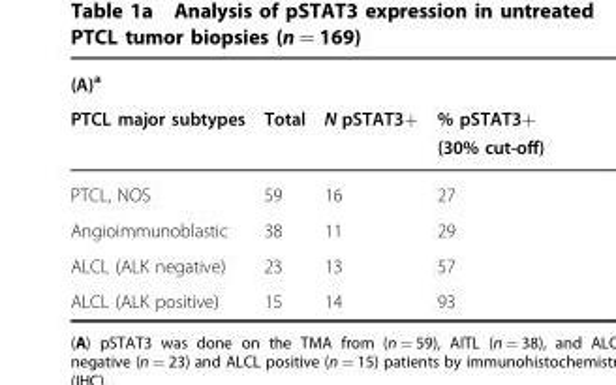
<table><thead><tr><td rowspan="2">(A)<sup>a</sup> PTCL major subtypes</td><td rowspan="2">Total</td><td rowspan="2">N pSTAT3+</td><td rowspan="2">% pSTAT3+ (30% cut-off)</td></tr><tr></tr></thead><tbody><tr><td>PTCL, NOS</td><td>59</td><td>16</td><td>27</td></tr><tr><td>Angioimmunoblastic</td><td>38</td><td>11</td><td>29</td></tr><tr><td>ALCL (ALK negative)</td><td>23</td><td>13</td><td>57</td></tr><tr><td>ALCL (ALK positive)</td><td>15</td><td>14</td><td>93</td></tr></tbody></table>